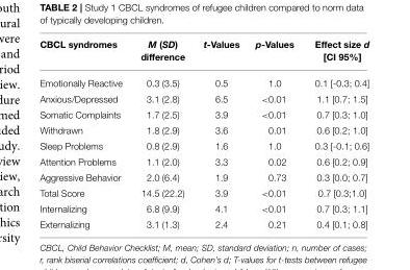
<table><thead><tr><td>CBCL syndromes</td><td>M (SD) difference</td><td>t-Values</td><td>p-Values</td><td>Effect size d [CI 95%]</td></tr></thead><tbody><tr><td>Emotionally Reactive</td><td>0.3 (3.5)</td><td>0.5</td><td>1.0</td><td>0.1 [-0.3; 0.4]</td></tr><tr><td>Anxious/Depressed</td><td>3.1 (2.8)</td><td>6.5</td><td>&lt;0.01</td><td>1.1 [0.7; 1.5]</td></tr><tr><td>Somatic Complaints</td><td>1.7 (2.5)</td><td>3.9</td><td>&lt;0.01</td><td>0.7 [0.3; 1.0]</td></tr><tr><td>Withdrawn</td><td>1.8 (2.9)</td><td>3.6</td><td>0.01</td><td>0.6 [0.2; 1.0]</td></tr><tr><td>Sleep Problems</td><td>0.8 (2.9)</td><td>1.6</td><td>1.0</td><td>0.3 [-0.1; 0.6]</td></tr><tr><td>Attention Problems</td><td>1.1 (2.0)</td><td>3.3</td><td>0.02</td><td>0.6 [0.2; 0.9]</td></tr><tr><td>Aggressive Behavior</td><td>2.0 (6.4)</td><td>1.9</td><td>0.73</td><td>0.3 [0.0; 0.7]</td></tr><tr><td>Total Score</td><td>14.5 (22.2)</td><td>3.9</td><td>&lt;0.01</td><td>0.7 [0.3;1.0]</td></tr><tr><td>Internalizing</td><td>6.8 (9.9)</td><td>4.1</td><td>&lt;0.01</td><td>0.7 [0.3; 1.1]</td></tr><tr><td>Externalizing</td><td>3.1 (1.3)</td><td>2.4</td><td>0.21</td><td>0.4 [0.1; 0.8]</td></tr></tbody></table>